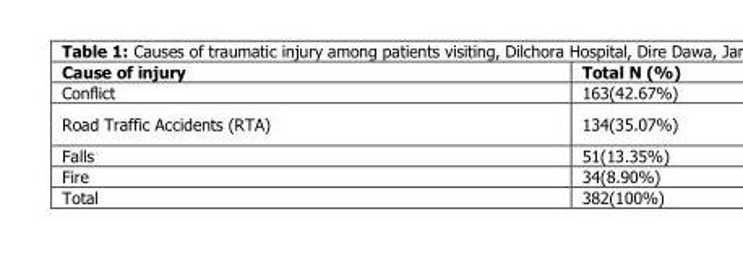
<table><thead><tr><td>Cause of injury</td><td>Total N (%)</td></tr></thead><tbody><tr><td>Conflict</td><td>163(42.67%)</td></tr><tr><td>Road Traffic Accidents (RTA)</td><td>134(35.07%)</td></tr><tr><td>Falls</td><td>51(13.35%)</td></tr><tr><td>Fire</td><td>34(8.90%)</td></tr><tr><td>Total</td><td>382(100%)</td></tr></tbody></table>